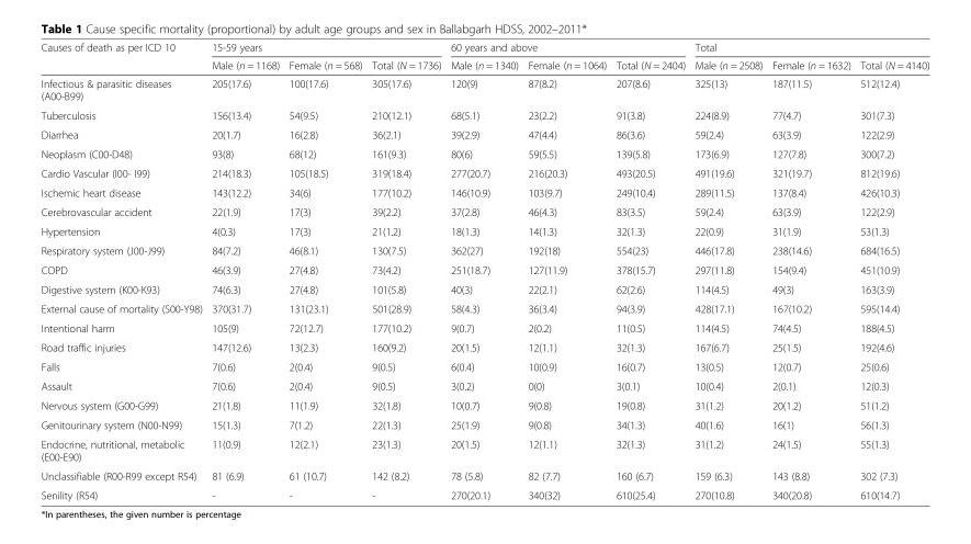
<table><thead><tr><td rowspan="2">Causes of death as per ICD 10</td><td colspan="3">15-59 years</td><td colspan="3">60 years and above</td><td colspan="3">Total</td></tr><tr><td>Male (n = 1168)</td><td>Female (n = 568)</td><td>Total (N = 1736)</td><td>Male (n = 1340)</td><td>Female (n = 1064)</td><td>Total (N = 2404)</td><td>Male (n = 2508)</td><td>Female (n = 1632)</td><td>Total (N = 4140)</td></tr></thead><tbody><tr><td>Infectious &amp; parasitic diseases (A00-B99)</td><td>205(17.6)</td><td>100(17.6)</td><td>305(17.6)</td><td>120(9)</td><td>87(8.2)</td><td>207(8.6)</td><td>325(13)</td><td>187(11.5)</td><td>512(12.4)</td></tr><tr><td>Tuberculosis</td><td>156(13.4)</td><td>54(9.5)</td><td>210(12.1)</td><td>68(5.1)</td><td>23(2.2)</td><td>91(3.8)</td><td>224(8.9)</td><td>77(4.7)</td><td>301(7.3)</td></tr><tr><td>Diarrhea</td><td>20(1.7)</td><td>16(2.8)</td><td>36(2.1)</td><td>39(2.9)</td><td>47(4.4)</td><td>86(3.6)</td><td>59(2.4)</td><td>63(3.9)</td><td>122(2.9)</td></tr><tr><td>Neoplasm (C00-D48)</td><td>93(8)</td><td>68(12)</td><td>161(9.3)</td><td>80(6)</td><td>59(5.5)</td><td>139(5.8)</td><td>173(6.9)</td><td>127(7.8)</td><td>300(7.2)</td></tr><tr><td>Cardio Vascular (I00- I99)</td><td>214(18.3)</td><td>105(18.5)</td><td>319(18.4)</td><td>277(20.7)</td><td>216(20.3)</td><td>493(20.5)</td><td>491(19.6)</td><td>321(19.7)</td><td>812(19.6)</td></tr><tr><td>Ischemic heart disease</td><td>143(12.2)</td><td>34(6)</td><td>177(10.2)</td><td>146(10.9)</td><td>103(9.7)</td><td>249(10.4)</td><td>289(11.5)</td><td>137(8.4)</td><td>426(10.3)</td></tr><tr><td>Cerebrovascular accident</td><td>22(1.9)</td><td>17(3)</td><td>39(2.2)</td><td>37(2.8)</td><td>46(4.3)</td><td>83(3.5)</td><td>59(2.4)</td><td>63(3.9)</td><td>122(2.9)</td></tr><tr><td>Hypertension</td><td>4(0.3)</td><td>17(3)</td><td>21(1.2)</td><td>18(1.3)</td><td>14(1.3)</td><td>32(1.3)</td><td>22(0.9)</td><td>31(1.9)</td><td>53(1.3)</td></tr><tr><td>Respiratory system (J00-J99)</td><td>84(7.2)</td><td>46(8.1)</td><td>130(7.5)</td><td>362(27)</td><td>192(18)</td><td>554(23)</td><td>446(17.8)</td><td>238(14.6)</td><td>684(16.5)</td></tr><tr><td>COPD</td><td>46(3.9)</td><td>27(4.8)</td><td>73(4.2)</td><td>251(18.7)</td><td>127(11.9)</td><td>378(15.7)</td><td>297(11.8)</td><td>154(9.4)</td><td>451(10.9)</td></tr><tr><td>Digestive system (K00-K93)</td><td>74(6.3)</td><td>27(4.8)</td><td>101(5.8)</td><td>40(3)</td><td>22(2.1)</td><td>62(2.6)</td><td>114(4.5)</td><td>49(3)</td><td>163(3.9)</td></tr><tr><td>External cause of mortality (S00-Y98)</td><td>370(31.7)</td><td>131(23.1)</td><td>501(28.9)</td><td>58(4.3)</td><td>36(3.4)</td><td>94(3.9)</td><td>428(17.1)</td><td>167(10.2)</td><td>595(14.4)</td></tr><tr><td>Intentional harm</td><td>105(9)</td><td>72(12.7)</td><td>177(10.2)</td><td>9(0.7)</td><td>2(0.2)</td><td>11(0.5)</td><td>114(4.5)</td><td>74(4.5)</td><td>188(4.5)</td></tr><tr><td>Road traffic injuries</td><td>147(12.6)</td><td>13(2.3)</td><td>160(9.2)</td><td>20(1.5)</td><td>12(1.1)</td><td>32(1.3)</td><td>167(6.7)</td><td>25(1.5)</td><td>192(4.6)</td></tr><tr><td>Falls</td><td>7(0.6)</td><td>2(0.4)</td><td>9(0.5)</td><td>6(0.4)</td><td>10(0.9)</td><td>16(0.7)</td><td>13(0.5)</td><td>12(0.7)</td><td>25(0.6)</td></tr><tr><td>Assault</td><td>7(0.6)</td><td>2(0.4)</td><td>9(0.5)</td><td>3(0.2)</td><td>0(0)</td><td>3(0.1)</td><td>10(0.4)</td><td>2(0.1)</td><td>12(0.3)</td></tr><tr><td>Nervous system (G00-G99)</td><td>21(1.8)</td><td>11(1.9)</td><td>32(1.8)</td><td>10(0.7)</td><td>9(0.8)</td><td>19(0.8)</td><td>31(1.2)</td><td>20(1.2)</td><td>51(1.2)</td></tr><tr><td>Genitourinary system (N00-N99)</td><td>15(1.3)</td><td>7(1.2)</td><td>22(1.3)</td><td>25(1.9)</td><td>9(0.8)</td><td>34(1.3)</td><td>40(1.6)</td><td>16(1)</td><td>56(1.3)</td></tr><tr><td>Endocrine, nutritional, metabolic (E00-E90)</td><td>11(0.9)</td><td>12(2.1)</td><td>23(1.3)</td><td>20(1.5)</td><td>12(1.1)</td><td>32(1.3)</td><td>31(1.2)</td><td>24(1.5)</td><td>55(1.3)</td></tr><tr><td>Unclassifiable (R00-R99 except R54)</td><td>81 (6.9)</td><td>61 (10.7)</td><td>142 (8.2)</td><td>78 (5.8)</td><td>82 (7.7)</td><td>160 (6.7)</td><td>159 (6.3)</td><td>143 (8.8)</td><td>302 (7.3)</td></tr><tr><td>Senility (R54)</td><td>-</td><td>-</td><td>-</td><td>270(20.1)</td><td>340(32)</td><td>610(25.4)</td><td>270(10.8)</td><td>340(20.8)</td><td>610(14.7)</td></tr></tbody></table>